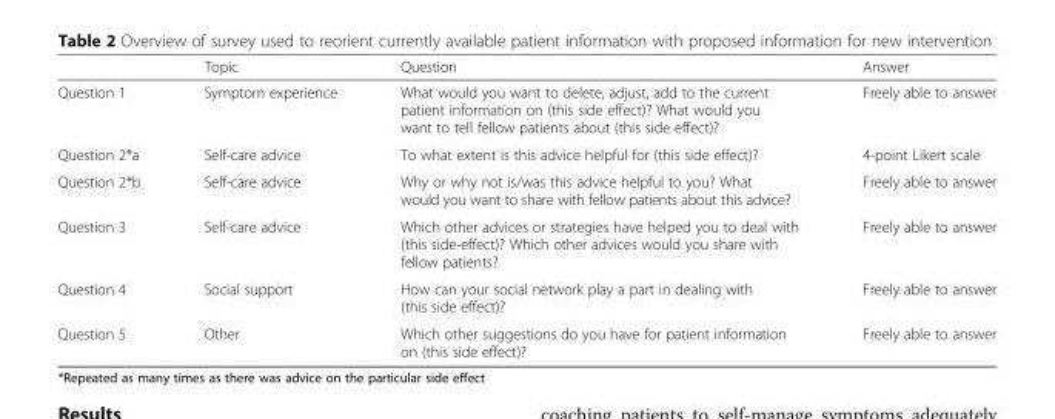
<table><thead><tr><td></td><td>Topic</td><td>Question</td><td>Answer</td></tr></thead><tbody><tr><td>Question 1</td><td>Symptom experience</td><td>What would you want to delete, adjust, add to the current patient information on (this side effect)? What would you want to tell fellow patients about (this side effect)?</td><td>Freely able to answer</td></tr><tr><td>Question 2*a</td><td>Self-care advice</td><td>To what extent is this advice helpful for (this side effect)?</td><td>4-point Likert scale</td></tr><tr><td>Question 2*b</td><td>Self-care advice</td><td>Why or why not is/was this advice helpful to you? What would you want to share with fellow patients about this advice?</td><td>Freely able to answer</td></tr><tr><td>Question 3</td><td>Self-care advice</td><td>Which other advices or strategies have helped you to deal with (this side-effect)? Which other advices would you share with fellow patients?</td><td>Freely able to answer</td></tr><tr><td>Question 4</td><td>Social support</td><td>How can your social network play a part in dealing with (this side effect)?</td><td>Freely able to answer</td></tr><tr><td>Question 5</td><td>Other</td><td>Which other suggestions do you have for patient information on (this side effect)?</td><td>Freely able to answer</td></tr></tbody></table>